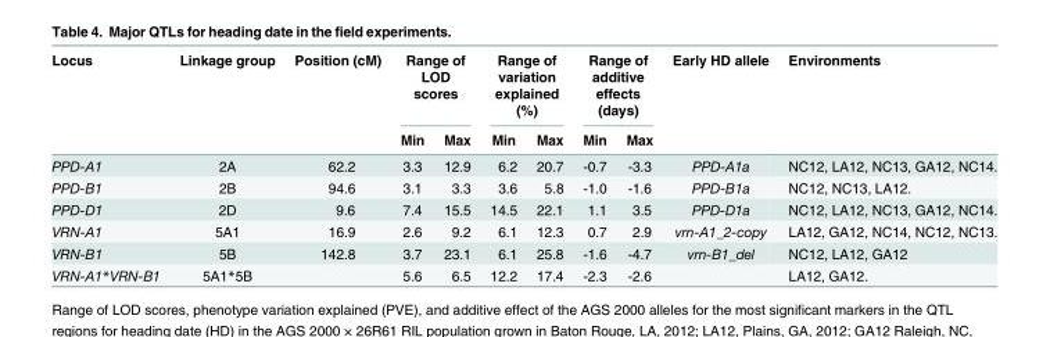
<table><thead><tr><td rowspan="2">Locus</td><td rowspan="2">Linkage group</td><td rowspan="2">Position (cM)</td><td colspan="2">Range of LOD scores</td><td colspan="2">Range of variation explained (%)</td><td colspan="2">Range of additive effects (days)</td><td rowspan="2">Early HD allele</td><td rowspan="2">Environments</td></tr><tr><td>Min</td><td>Max</td><td>Min</td><td>Max</td><td>Min</td><td>Max</td></tr></thead><tbody><tr><td>PPD-A1</td><td>2A</td><td>62.2</td><td>3.3</td><td>12.9</td><td>6.2</td><td>20.7</td><td>-0.7</td><td>-3.3</td><td>PPD-A1a</td><td>NC12, LA12, NC13, GA12, NC14.</td></tr><tr><td>PPD-B1</td><td>2B</td><td>94.6</td><td>3.1</td><td>3.3</td><td>3.6</td><td>5.8</td><td>-1.0</td><td>-1.6</td><td>PPD-B1a</td><td>NC12, NC13, LA12.</td></tr><tr><td>PPD-D1</td><td>2D</td><td>9.6</td><td>7.4</td><td>15.5</td><td>14.5</td><td>22.1</td><td>1.1</td><td>3.5</td><td>PPD-D1a</td><td>NC12, LA12, NC13, GA12, NC14.</td></tr><tr><td>VRN-A1</td><td>5A1</td><td>16.9</td><td>2.6</td><td>9.2</td><td>6.1</td><td>12.3</td><td>0.7</td><td>2.9</td><td>vrn-A1_2-copy</td><td>LA12, GA12, NC14, NC12, NC13.</td></tr><tr><td>VRN-B1</td><td>5B</td><td>142.8</td><td>3.7</td><td>23.1</td><td>6.1</td><td>25.8</td><td>-1.6</td><td>-4.7</td><td>vrn-B1_del</td><td>NC12, LA12, GA12</td></tr><tr><td>VRN-A1*VRN-B1</td><td>5A1*5B</td><td></td><td>5.6</td><td>6.5</td><td>12.2</td><td>17.4</td><td>-2.3</td><td>-2.6</td><td></td><td>LA12, GA12.</td></tr></tbody></table>